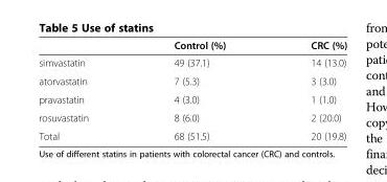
<table><thead><tr><td></td><td>Control (%)</td><td>CRC (%)</td></tr></thead><tbody><tr><td>simvastatin</td><td>49 (37.1)</td><td>14 (13.0)</td></tr><tr><td>atorvastatin</td><td>7 (5.3)</td><td>3 (3.0)</td></tr><tr><td>pravastatin</td><td>4 (3.0)</td><td>1 (1.0)</td></tr><tr><td>rosuvastatin</td><td>8 (6.0)</td><td>2 (20.0)</td></tr><tr><td>Total</td><td>68 (51.5)</td><td>20 (19.8)</td></tr></tbody></table>